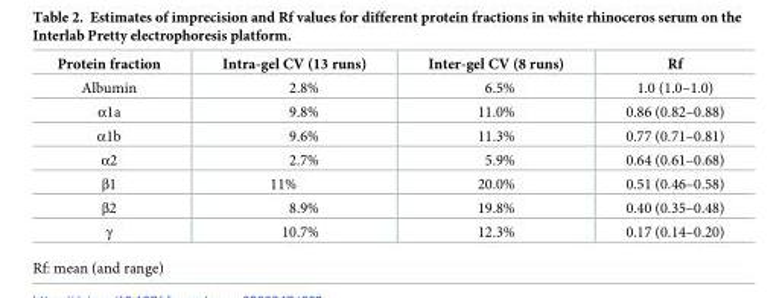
<table><thead><tr><td>Protein fraction</td><td>Intra-gel CV (13 runs)</td><td>Inter-gel CV (8 runs)</td><td>Rf</td></tr></thead><tbody><tr><td>Albumin</td><td>2.8%</td><td>6.5%</td><td>1.0 (1.0–1.0)</td></tr><tr><td>α1a</td><td>9.8%</td><td>11.0%</td><td>0.86 (0.82–0.88)</td></tr><tr><td>α1b</td><td>9.6%</td><td>11.3%</td><td>0.77 (0.71–0.81)</td></tr><tr><td>α2</td><td>2.7%</td><td>5.9%</td><td>0.64 (0.61–0.68)</td></tr><tr><td>β1</td><td>11%</td><td>20.0%</td><td>0.51 (0.46–0.58)</td></tr><tr><td>β2</td><td>8.9%</td><td>19.8%</td><td>0.40 (0.35–0.48)</td></tr><tr><td>γ</td><td>10.7%</td><td>12.3%</td><td>0.17 (0.14–0.20)</td></tr></tbody></table>